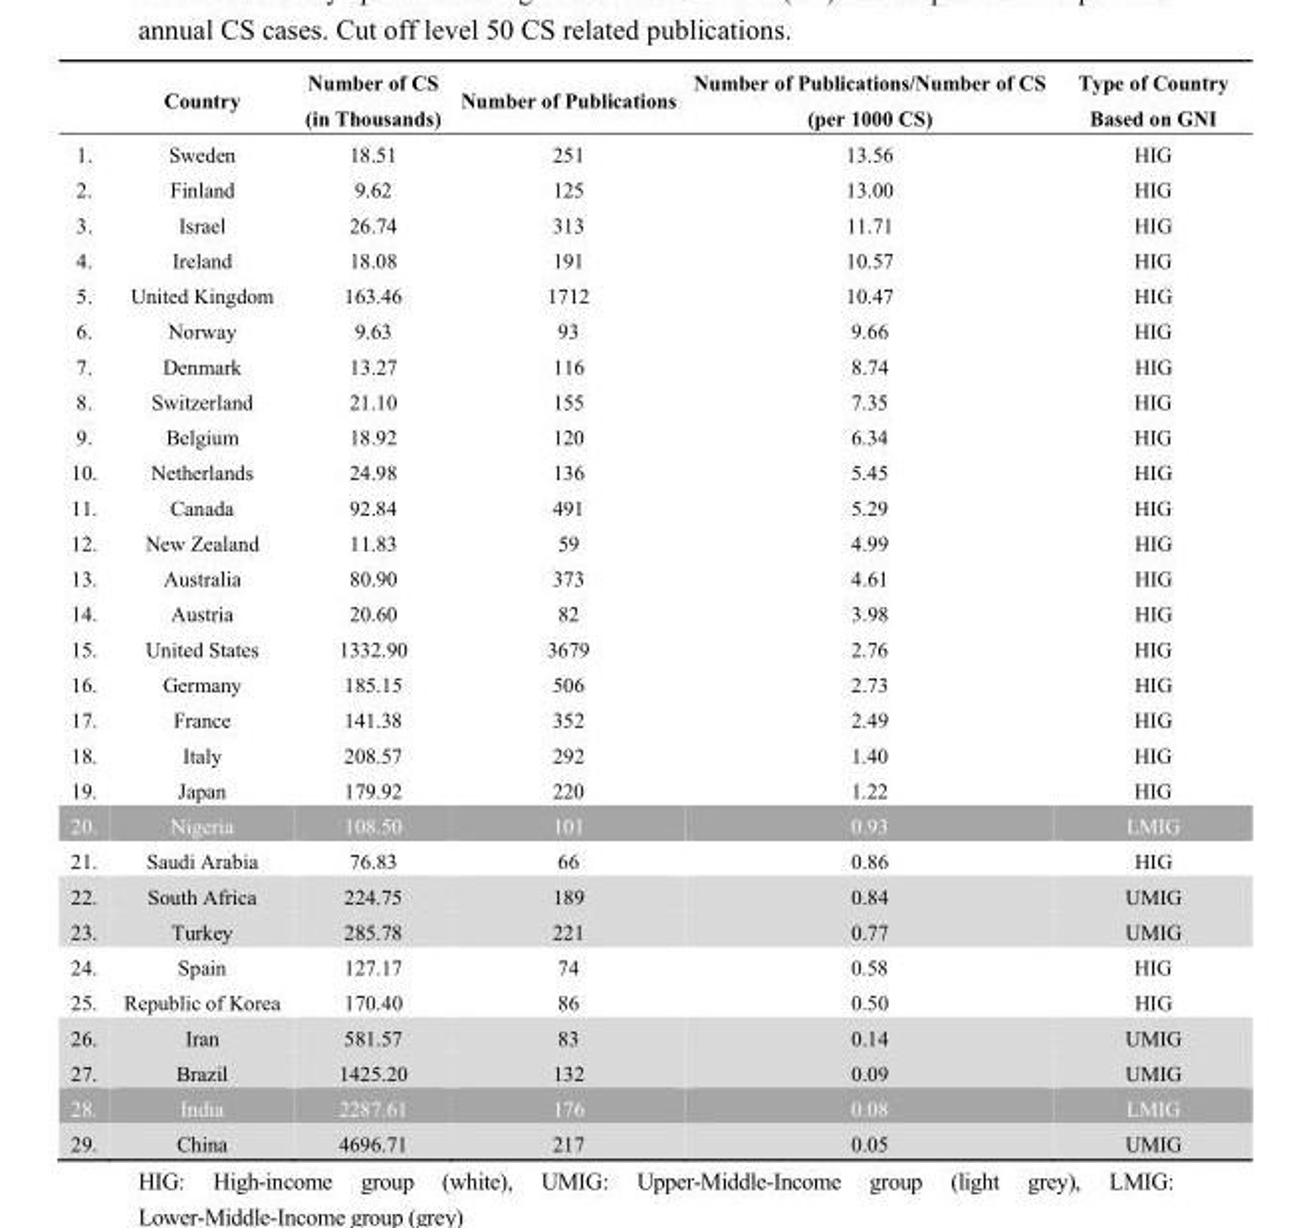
<table><thead><tr><td></td><td>Country</td><td>Number of CS (in Thousands)</td><td>Number of Publications</td><td>Number of Publications/Number of CS (per 1000 CS)</td><td>Type of Country Based on GNI</td></tr></thead><tbody><tr><td>1.</td><td>Sweden</td><td>18.51</td><td>251</td><td>13.56</td><td>HIG</td></tr><tr><td>2.</td><td>Finland</td><td>9.62</td><td>125</td><td>13.00</td><td>HIG</td></tr><tr><td>3.</td><td>Israel</td><td>26.74</td><td>313</td><td>11.71</td><td>HIG</td></tr><tr><td>4.</td><td>Ireland</td><td>18.08</td><td>191</td><td>10.57</td><td>HIG</td></tr><tr><td>5.</td><td>United Kingdom</td><td>163.46</td><td>1712</td><td>10.47</td><td>HIG</td></tr><tr><td>6.</td><td>Norway</td><td>9.63</td><td>93</td><td>9.66</td><td>HIG</td></tr><tr><td>7.</td><td>Denmark</td><td>13.27</td><td>116</td><td>8.74</td><td>HIG</td></tr><tr><td>8.</td><td>Switzerland</td><td>21.10</td><td>155</td><td>7.35</td><td>HIG</td></tr><tr><td>9.</td><td>Belgium</td><td>18.92</td><td>120</td><td>6.34</td><td>HIG</td></tr><tr><td>10.</td><td>Netherlands</td><td>24.98</td><td>136</td><td>5.45</td><td>HIG</td></tr><tr><td>11.</td><td>Canada</td><td>92.84</td><td>491</td><td>5.29</td><td>HIG</td></tr><tr><td>12.</td><td>New Zealand</td><td>11.83</td><td>59</td><td>4.99</td><td>HIG</td></tr><tr><td>13.</td><td>Australia</td><td>80.90</td><td>373</td><td>4.61</td><td>HIG</td></tr><tr><td>14.</td><td>Austria</td><td>20.60</td><td>82</td><td>3.98</td><td>HIG</td></tr><tr><td>15.</td><td>United States</td><td>1332.90</td><td>3679</td><td>2.76</td><td>HIG</td></tr><tr><td>16.</td><td>Germany</td><td>185.15</td><td>506</td><td>2.73</td><td>HIG</td></tr><tr><td>17.</td><td>France</td><td>141.38</td><td>352</td><td>2.49</td><td>HIG</td></tr><tr><td>18.</td><td>Italy</td><td>208.57</td><td>292</td><td>1.40</td><td>HIG</td></tr><tr><td>19.</td><td>Japan</td><td>179.92</td><td>220</td><td>1.22</td><td>HIG</td></tr><tr><td>20.</td><td>Nigeria</td><td>108.50</td><td>101</td><td>0.93</td><td>LMIG</td></tr><tr><td>21.</td><td>Saudi Arabia</td><td>76.83</td><td>66</td><td>0.86</td><td>HIG</td></tr><tr><td>22.</td><td>South Africa</td><td>224.75</td><td>189</td><td>0.84</td><td>UMIG</td></tr><tr><td>23.</td><td>Turkey</td><td>285.78</td><td>221</td><td>0.77</td><td>UMIG</td></tr><tr><td>24.</td><td>Spain</td><td>127.17</td><td>74</td><td>0.58</td><td>HIG</td></tr><tr><td>25.</td><td>Republic of Korea</td><td>170.40</td><td>86</td><td>0.50</td><td>HIG</td></tr><tr><td>26.</td><td>Iran</td><td>581.57</td><td>83</td><td>0.14</td><td>UMIG</td></tr><tr><td>27.</td><td>Brazil</td><td>1425.20</td><td>132</td><td>0.09</td><td>UMIG</td></tr><tr><td>28.</td><td>India</td><td>2287.61</td><td>176</td><td>0.08</td><td>LMIG</td></tr><tr><td>29.</td><td>China</td><td>4696.71</td><td>217</td><td>0.05</td><td>UMIG</td></tr></tbody></table>